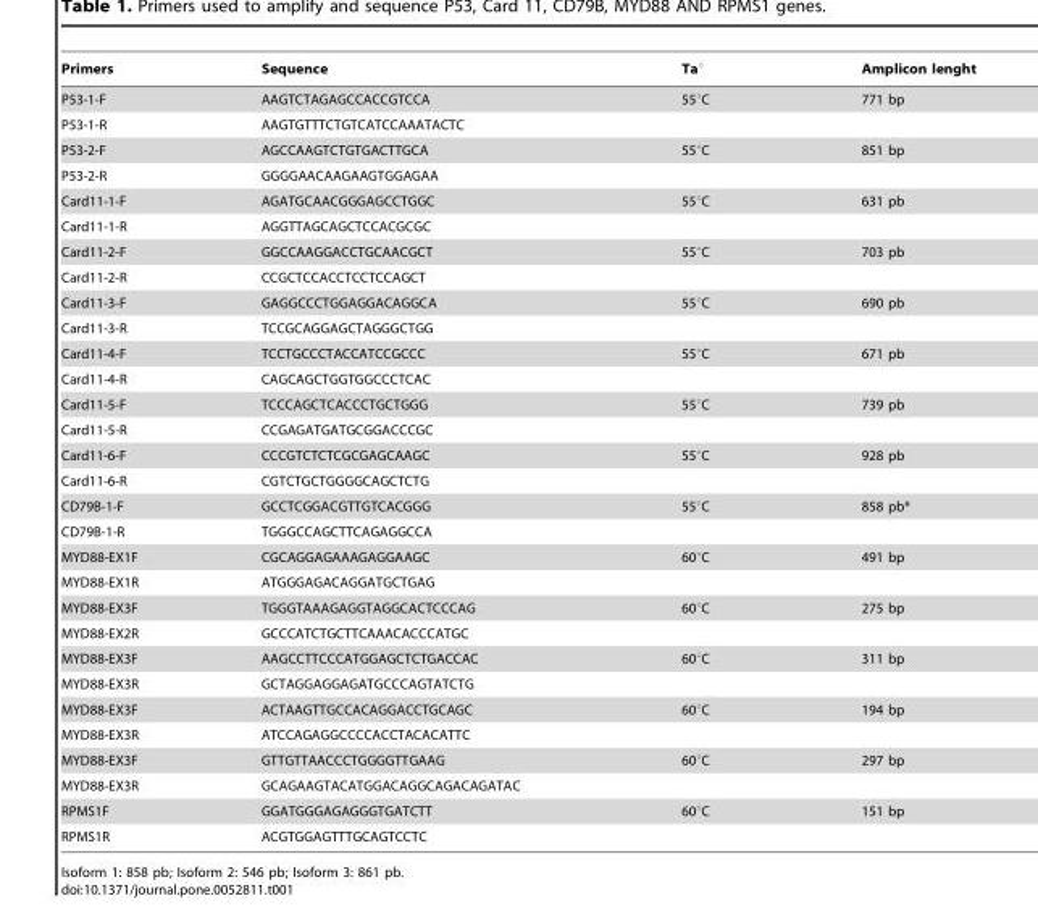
<table><thead><tr><td>Primers</td><td>Sequence</td><td>Ta°</td><td>Amplicon lenght</td></tr></thead><tbody><tr><td>P53-1-F</td><td>AAGTCTAGAGCCACCGTCCA</td><td>55°C</td><td>771 bp</td></tr><tr><td>P53-1-R</td><td>AAGTGTTTCTGTCATCCAAATACTC</td><td></td><td></td></tr><tr><td>P53-2-F</td><td>AGCCAAGTCTGTGACTTGCA</td><td>55°C</td><td>851 bp</td></tr><tr><td>P53-2-R</td><td>GGGGAACAAGAAGTGGAGAA</td><td></td><td></td></tr><tr><td>Card11-1-F</td><td>AGATGCAACGGGAGCCTGGC</td><td>55°C</td><td>631 pb</td></tr><tr><td>Card11-1-R</td><td>AGGTTAGCAGCTCCACGCGC</td><td></td><td></td></tr><tr><td>Card11-2-F</td><td>GGCCAAGGACCTGCAACGCT</td><td>55°C</td><td>703 pb</td></tr><tr><td>Card11-2-R</td><td>CCGCTCCACCTCCTCCAGCT</td><td></td><td></td></tr><tr><td>Card11-3-F</td><td>GAGGCCCTGGAGGACAGGCA</td><td>55°C</td><td>690 pb</td></tr><tr><td>Card11-3-R</td><td>TCCGCAGGAGCTAGGGCTGG</td><td></td><td></td></tr><tr><td>Card11-4-F</td><td>TCCTGCCCTACCATCCGCCC</td><td>55°C</td><td>671 pb</td></tr><tr><td>Card11-4-R</td><td>CAGCAGCTGGTGGCCCTCAC</td><td></td><td></td></tr><tr><td>Card11-5-F</td><td>TCCCAGCTCACCCTGCTGGG</td><td>55°C</td><td>739 pb</td></tr><tr><td>Card11-5-R</td><td>CCGAGATGATGCGGACCCGC</td><td></td><td></td></tr><tr><td>Card11-6-F</td><td>CCCGTCTCTCGCGAGCAAGC</td><td>55°C</td><td>928 pb</td></tr><tr><td>Card11-6-R</td><td>CGTCTGCTGGGGCAGCTCTG</td><td></td><td></td></tr><tr><td>CD79B-1-F</td><td>GCCTCGGACGTTGTCACGGG</td><td>55°C</td><td>858 pb*</td></tr><tr><td>CD79B-1-R</td><td>TGGGCCAGCTTCAGAGGCCA</td><td></td><td></td></tr><tr><td>MYD88-EX1F</td><td>CGCAGGAGAAAGAGGAAGC</td><td>60°C</td><td>491 bp</td></tr><tr><td>MYD88-EX1R</td><td>ATGGGAGACAGGATGCTGAG</td><td></td><td></td></tr><tr><td>MYD88-EX3F</td><td>TGGGTAAAGAGGTAGGCACTCCCAG</td><td>60°C</td><td>275 bp</td></tr><tr><td>MYD88-EX2R</td><td>GCCCATCTGCTTCAAACACCCATGC</td><td></td><td></td></tr><tr><td>MYD88-EX3F</td><td>AAGCCTTCCCATGGAGCTCTGACCAC</td><td>60°C</td><td>311 bp</td></tr><tr><td>MYD88-EX3R</td><td>GCTAGGAGGAGATGCCCAGTATCTG</td><td></td><td></td></tr><tr><td>MYD88-EX3F</td><td>ACTAAGTTGCCACAGGACCTGCAGC</td><td>60°C</td><td>194 bp</td></tr><tr><td>MYD88-EX3R</td><td>ATCCAGAGGCCCCACCTACACATTC</td><td></td><td></td></tr><tr><td>MYD88-EX3F</td><td>GTTGTTAACCCTGGGGTTGAAG</td><td>60°C</td><td>297 bp</td></tr><tr><td>MYD88-EX3R</td><td>GCAGAAGTACATGGACAGGCAGACAGATAC</td><td></td><td></td></tr><tr><td>RPMS1F</td><td>GGATGGGAGAGGGTGATCTT</td><td>60°C</td><td>151 bp</td></tr><tr><td>RPMS1R</td><td>ACGTGGAGTTTGCAGTCCTC</td><td></td><td></td></tr></tbody></table>